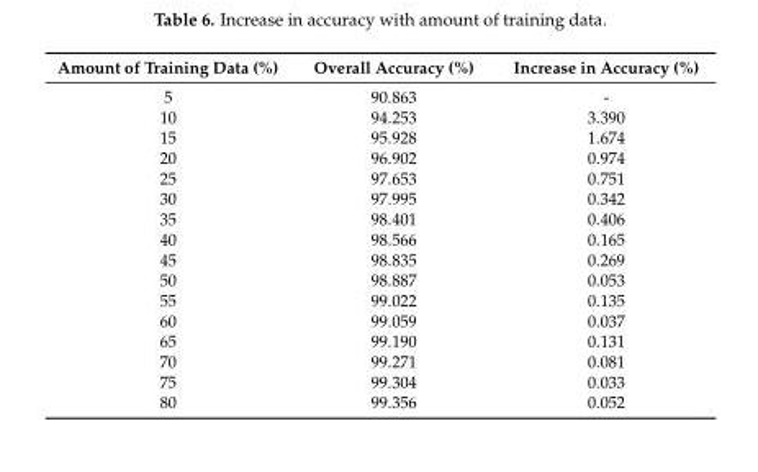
<table><thead><tr><td>Amount of Training Data (%)</td><td>Overall Accuracy (%)</td><td>Increase in Accuracy (%)</td></tr></thead><tbody><tr><td>5</td><td>90.863</td><td>-</td></tr><tr><td>10</td><td>94.253</td><td>3.390</td></tr><tr><td>15</td><td>95.928</td><td>1.674</td></tr><tr><td>20</td><td>96.902</td><td>0.974</td></tr><tr><td>25</td><td>97.653</td><td>0.751</td></tr><tr><td>30</td><td>97.995</td><td>0.342</td></tr><tr><td>35</td><td>98.401</td><td>0.406</td></tr><tr><td>40</td><td>98.566</td><td>0.165</td></tr><tr><td>45</td><td>98.835</td><td>0.269</td></tr><tr><td>50</td><td>98.887</td><td>0.053</td></tr><tr><td>55</td><td>99.022</td><td>0.135</td></tr><tr><td>60</td><td>99.059</td><td>0.037</td></tr><tr><td>65</td><td>99.190</td><td>0.131</td></tr><tr><td>70</td><td>99.271</td><td>0.081</td></tr><tr><td>75</td><td>99.304</td><td>0.033</td></tr><tr><td>80</td><td>99.356</td><td>0.052</td></tr></tbody></table>